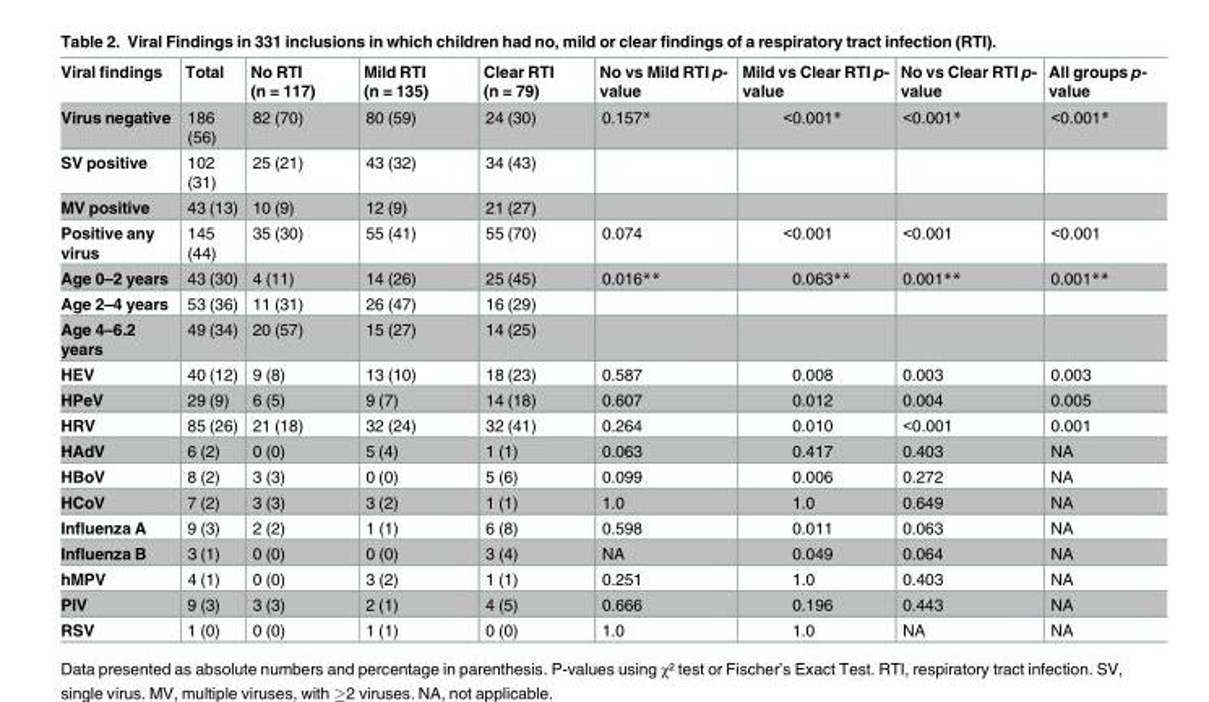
<table><thead><tr><td>Viral findings</td><td>Total</td><td>No RTI (n = 117)</td><td>Mild RTI (n = 135)</td><td>Clear RTI (n = 79)</td><td>No vs Mild RTI p- value</td><td>Mild vs Clear RTI p- value</td><td>No vs Clear RTI p- value</td><td>All groups p- value</td></tr></thead><tbody><tr><td>Virus negative</td><td>186 (56)</td><td>82 (70)</td><td>80 (59)</td><td>24 (30)</td><td>0.157*</td><td>&lt;0.001*</td><td>&lt;0.001*</td><td>&lt;0.001*</td></tr><tr><td>SV positive</td><td>102 (31)</td><td>25 (21)</td><td>43 (32)</td><td>34 (43)</td><td></td><td></td><td></td><td></td></tr><tr><td>MV positive</td><td>43 (13)</td><td>10 (9)</td><td>12 (9)</td><td>21 (27)</td><td></td><td></td><td></td><td></td></tr><tr><td>Positive any virus</td><td>145 (44)</td><td>35 (30)</td><td>55 (41)</td><td>55 (70)</td><td>0.074</td><td>&lt;0.001</td><td>&lt;0.001</td><td>&lt;0.001</td></tr><tr><td>Age 0–2 years</td><td>43 (30)</td><td>4 (11)</td><td>14 (26)</td><td>25 (45)</td><td>0.016**</td><td>0.063**</td><td>0.001**</td><td>0.001**</td></tr><tr><td>Age 2–4 years</td><td>53 (36)</td><td>11 (31)</td><td>26 (47)</td><td>16 (29)</td><td></td><td></td><td></td><td></td></tr><tr><td>Age 4–6.2 years</td><td>49 (34)</td><td>20 (57)</td><td>15 (27)</td><td>14 (25)</td><td></td><td></td><td></td><td></td></tr><tr><td>HEV</td><td>40 (12)</td><td>9 (8)</td><td>13 (10)</td><td>18 (23)</td><td>0.587</td><td>0.008</td><td>0.003</td><td>0.003</td></tr><tr><td>HPeV</td><td>29 (9)</td><td>6 (5)</td><td>9 (7)</td><td>14 (18)</td><td>0.607</td><td>0.012</td><td>0.004</td><td>0.005</td></tr><tr><td>HRV</td><td>85 (26)</td><td>21 (18)</td><td>32 (24)</td><td>32 (41)</td><td>0.264</td><td>0.010</td><td>&lt;0.001</td><td>0.001</td></tr><tr><td>HAdV</td><td>6 (2)</td><td>0 (0)</td><td>5 (4)</td><td>1 (1)</td><td>0.063</td><td>0.417</td><td>0.403</td><td>NA</td></tr><tr><td>HBoV</td><td>8 (2)</td><td>3 (3)</td><td>0 (0)</td><td>5 (6)</td><td>0.099</td><td>0.006</td><td>0.272</td><td>NA</td></tr><tr><td>HCoV</td><td>7 (2)</td><td>3 (3)</td><td>3 (2)</td><td>1 (1)</td><td>1.0</td><td>1.0</td><td>0.649</td><td>NA</td></tr><tr><td>Influenza A</td><td>9 (3)</td><td>2 (2)</td><td>1 (1)</td><td>6 (8)</td><td>0.598</td><td>0.011</td><td>0.063</td><td>NA</td></tr><tr><td>Influenza B</td><td>3 (1)</td><td>0 (0)</td><td>0 (0)</td><td>3 (4)</td><td>NA</td><td>0.049</td><td>0.064</td><td>NA</td></tr><tr><td>hMPV</td><td>4 (1)</td><td>0 (0)</td><td>3 (2)</td><td>1 (1)</td><td>0.251</td><td>1.0</td><td>0.403</td><td>NA</td></tr><tr><td>PIV</td><td>9 (3)</td><td>3 (3)</td><td>2 (1)</td><td>4 (5)</td><td>0.666</td><td>0.196</td><td>0.443</td><td>NA</td></tr><tr><td>RSV</td><td>1 (0)</td><td>0 (0)</td><td>1 (1)</td><td>0 (0)</td><td>1.0</td><td>1.0</td><td>NA</td><td>NA</td></tr></tbody></table>